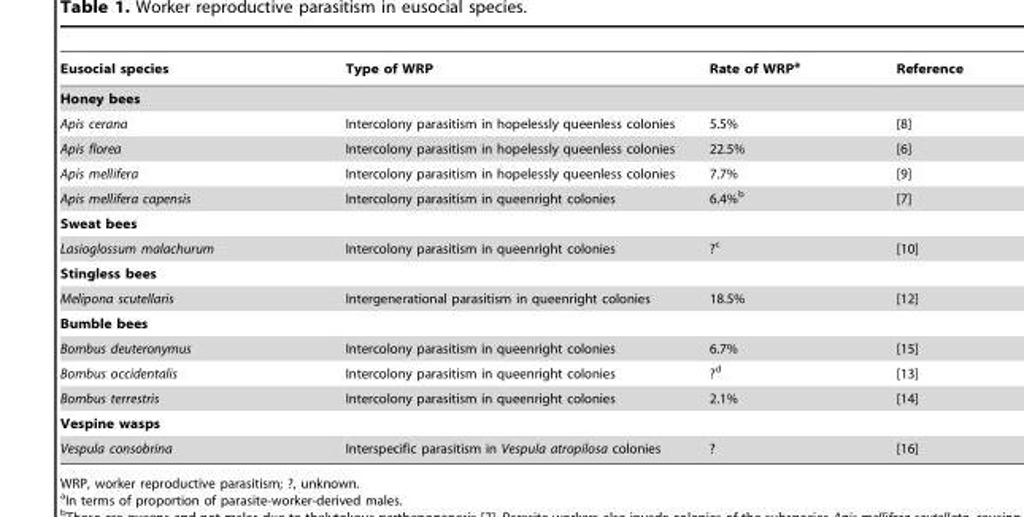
<table><thead><tr><td>Eusocial species</td><td>Type of WRP</td><td>Rate of WRP<sup>a</sup></td><td>Reference</td></tr></thead><tbody><tr><td colspan="4">Honey bees</td></tr><tr><td>Apis cerana</td><td>Intercolony parasitism in hopelessly queenless colonies</td><td>5.5%</td><td>[8]</td></tr><tr><td>Apis florea</td><td>Intercolony parasitism in hopelessly queenless colonies</td><td>22.5%</td><td>[6]</td></tr><tr><td>Apis mellifera</td><td>Intercolony parasitism in hopelessly queenless colonies</td><td>7.7%</td><td>[9]</td></tr><tr><td>Apis mellifera capensis</td><td>Intercolony parasitism in queenright colonies</td><td>6.4%<sup>b</sup></td><td>[7]</td></tr><tr><td colspan="4">Sweat bees</td></tr><tr><td>Lasioglossum malachurum</td><td>Intercolony parasitism in queenright colonies</td><td>?<sup>c</sup></td><td>[10]</td></tr><tr><td colspan="4">Stingless bees</td></tr><tr><td>Melipona scutellaris</td><td>Intergenerational parasitism in queenright colonies</td><td>18.5%</td><td>[12]</td></tr><tr><td colspan="4">Bumble bees</td></tr><tr><td>Bombus deuteronymus</td><td>Intercolony parasitism in queenright colonies</td><td>6.7%</td><td>[15]</td></tr><tr><td>Bombus occidentalis</td><td>Intercolony parasitism in queenright colonies</td><td>?<sup>d</sup></td><td>[13]</td></tr><tr><td>Bombus terrestris</td><td>Intercolony parasitism in queenright colonies</td><td>2.1%</td><td>[14]</td></tr><tr><td colspan="4">Vespine wasps</td></tr><tr><td>Vespula consobrina</td><td>Interspecific parasitism in Vespula atropilosa colonies</td><td>?</td><td>[16]</td></tr></tbody></table>